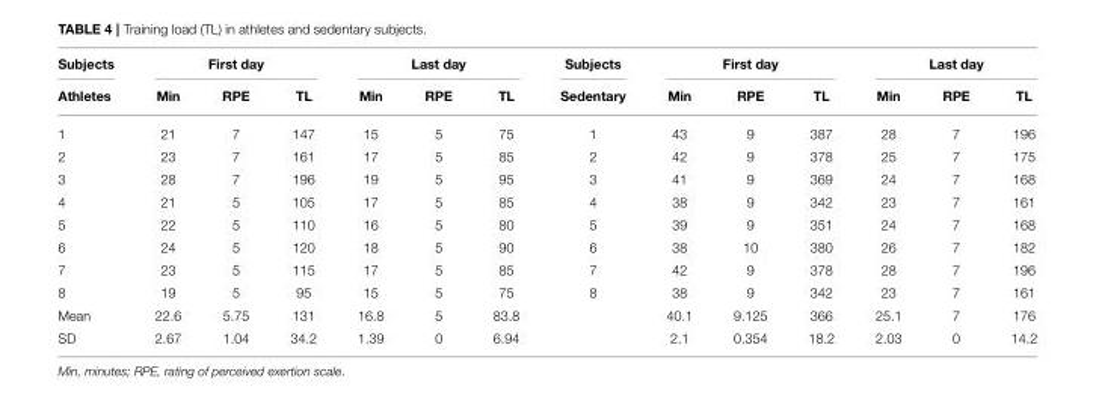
<table><thead><tr><td rowspan="2">Subjects Athletes</td><td colspan="3">First day</td><td colspan="3">Last day</td><td rowspan="2">Subjects Sedentary</td><td colspan="3">First day</td><td colspan="3">Last day</td></tr><tr><td>Min</td><td>RPE</td><td>TL</td><td>Min</td><td>RPE</td><td>TL</td><td>Min</td><td>RPE</td><td>TL</td><td>Min</td><td>RPE</td><td>TL</td></tr></thead><tbody><tr><td>1</td><td>21</td><td>7</td><td>147</td><td>15</td><td>5</td><td>75</td><td>1</td><td>43</td><td>9</td><td>387</td><td>28</td><td>7</td><td>196</td></tr><tr><td>2</td><td>23</td><td>7</td><td>161</td><td>17</td><td>5</td><td>85</td><td>2</td><td>42</td><td>9</td><td>378</td><td>25</td><td>7</td><td>175</td></tr><tr><td>3</td><td>28</td><td>7</td><td>196</td><td>19</td><td>5</td><td>95</td><td>3</td><td>41</td><td>9</td><td>369</td><td>24</td><td>7</td><td>168</td></tr><tr><td>4</td><td>21</td><td>5</td><td>105</td><td>17</td><td>5</td><td>85</td><td>4</td><td>38</td><td>9</td><td>342</td><td>23</td><td>7</td><td>161</td></tr><tr><td>5</td><td>22</td><td>5</td><td>110</td><td>16</td><td>5</td><td>80</td><td>5</td><td>39</td><td>9</td><td>351</td><td>24</td><td>7</td><td>168</td></tr><tr><td>6</td><td>24</td><td>5</td><td>120</td><td>18</td><td>5</td><td>90</td><td>6</td><td>38</td><td>10</td><td>380</td><td>26</td><td>7</td><td>182</td></tr><tr><td>7</td><td>23</td><td>5</td><td>115</td><td>17</td><td>5</td><td>85</td><td>7</td><td>42</td><td>9</td><td>378</td><td>28</td><td>7</td><td>196</td></tr><tr><td>8</td><td>19</td><td>5</td><td>95</td><td>15</td><td>5</td><td>75</td><td>8</td><td>38</td><td>9</td><td>342</td><td>23</td><td>7</td><td>161</td></tr><tr><td>Mean</td><td>22.6</td><td>5.75</td><td>131</td><td>16.8</td><td>5</td><td>83.8</td><td></td><td>40.1</td><td>9.125</td><td>366</td><td>25.1</td><td>7</td><td>176</td></tr><tr><td>SD</td><td>2.67</td><td>1.04</td><td>34.2</td><td>1.39</td><td>0</td><td>6.94</td><td></td><td>2.1</td><td>0.354</td><td>18.2</td><td>2.03</td><td>0</td><td>14.2</td></tr></tbody></table>